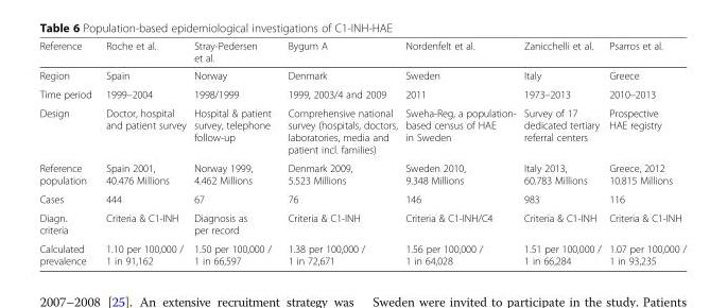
<table><thead><tr><td>Reference</td><td>Roche et al.</td><td>Stray-Pedersen et al.</td><td>Bygum A</td><td>Nordenfelt et al.</td><td>Zanicchelli et al.</td><td>Psarros et al.</td></tr></thead><tbody><tr><td>Region</td><td>Spain</td><td>Norway</td><td>Denmark</td><td>Sweden</td><td>Italy</td><td>Greece</td></tr><tr><td>Time period</td><td>1999–2004</td><td>1998/1999</td><td>1999, 2003/4 and 2009</td><td>2011</td><td>1973–2013</td><td>2010–2013</td></tr><tr><td>Design</td><td>Doctor, hospital and patient survey</td><td>Hospital &amp; patient survey, telephone follow-up</td><td>Comprehensive national survey (hospitals, doctors, laboratories, media and patient incl. families)</td><td>Sweha-Reg, a population- based census of HAE in Sweden</td><td>Survey of 17 dedicated tertiary referral centers</td><td>Prospective HAE registry</td></tr><tr><td>Reference population</td><td>Spain 2001, 40.476 Millions</td><td>Norway 1999, 4.462 Millions</td><td>Denmark 2009, 5.523 Millions</td><td>Sweden 2010, 9.348 Millions</td><td>Italy 2013, 60.783 Millions</td><td>Greece, 2012 10.815 Millions</td></tr><tr><td>Cases</td><td>444</td><td>67</td><td>76</td><td>146</td><td>983</td><td>116</td></tr><tr><td>Diagn. criteria</td><td>Criteria &amp; C1-INH</td><td>Diagnosis as per record</td><td>Criteria &amp; C1-INH</td><td>Criteria &amp; C1-INH/C4</td><td>Criteria &amp; C1-INH</td><td>Criteria &amp; C1-INH</td></tr><tr><td>Calculated prevalence</td><td>1.10 per 100,000 / 1 in 91,162</td><td>1.50 per 100,000 / 1 in 66,597</td><td>1.38 per 100,000 / 1 in 72,671</td><td>1.56 per 100,000 / 1 in 64,028</td><td>1.51 per 100,000 / 1 in 66,284</td><td>1.07 per 100,000 / 1 in 93,235</td></tr></tbody></table>